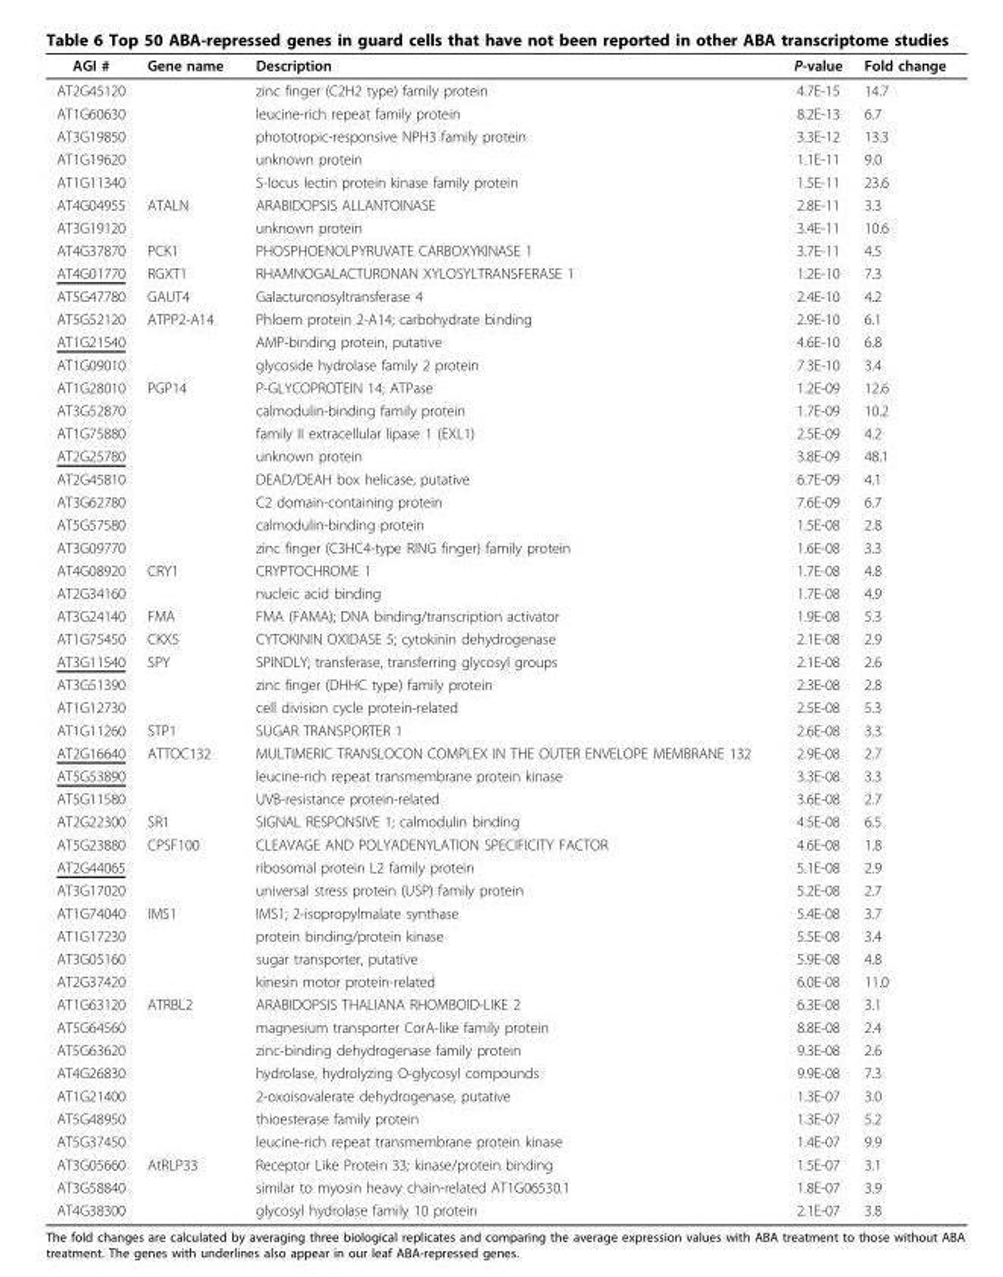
<table><thead><tr><td>AGI #</td><td>Gene name</td><td>Description</td><td>P-value</td><td>Fold change</td></tr></thead><tbody><tr><td>AT2G45120</td><td></td><td>zinc finger (C2H2 type) family protein</td><td>4.7E-15</td><td>14.7</td></tr><tr><td>AT1G60630</td><td></td><td>leucine-rich repeat family protein</td><td>8.2E-13</td><td>6.7</td></tr><tr><td>AT3G19850</td><td></td><td>phototropic-responsive NPH3 family protein</td><td>3.3E-12</td><td>13.3</td></tr><tr><td>AT1G19620</td><td></td><td>unknown protein</td><td>1.1E-11</td><td>9.0</td></tr><tr><td>AT1G11340</td><td></td><td>S-locus lectin protein kinase family protein</td><td>1.5E-11</td><td>23.6</td></tr><tr><td>AT4G04955</td><td>ATALN</td><td>ARABIDOPSIS ALLANTOINASE</td><td>2.8E-11</td><td>3.3</td></tr><tr><td>AT3G19120</td><td></td><td>unknown protein</td><td>3.4E-11</td><td>10.6</td></tr><tr><td>AT4G37870</td><td>PCK1</td><td>PHOSPHOENOLPYRUVATE CARBOXYKINASE 1</td><td>3.7E-11</td><td>4.5</td></tr><tr><td>AT4G01770</td><td>RGXT1</td><td>RHAMNOGALACTURONAN XYLOSYLTRANSFERASE 1</td><td>1.2E-10</td><td>7.3</td></tr><tr><td>AT5G47780</td><td>GAUT4</td><td>Galacturonosyltransferase 4</td><td>2.4E-10</td><td>4.2</td></tr><tr><td>AT5G52120</td><td>ATPP2-A14</td><td>Phloem protein 2-A14; carbohydrate binding</td><td>2.9E-10</td><td>6.1</td></tr><tr><td>AT1G21540</td><td></td><td>AMP-binding protein, putative</td><td>4.6E-10</td><td>6.8</td></tr><tr><td>AT1G09010</td><td></td><td>glycoside hydrolase family 2 protein</td><td>7.3E-10</td><td>3.4</td></tr><tr><td>AT1G28010</td><td>PGP14</td><td>P-GLYCOPROTEIN 14; ATPase</td><td>1.2E-09</td><td>12.6</td></tr><tr><td>AT3G52870</td><td></td><td>calmodulin-binding family protein</td><td>1.7E-09</td><td>10.2</td></tr><tr><td>AT1G75880</td><td></td><td>family II extracellular lipase 1 (EXL1)</td><td>2.5E-09</td><td>4.2</td></tr><tr><td>AT2G25780</td><td></td><td>unknown protein</td><td>3.8E-09</td><td>48.1</td></tr><tr><td>AT2G45810</td><td></td><td>DEAD/DEAH box helicase, putative</td><td>6.7E-09</td><td>4.1</td></tr><tr><td>AT3G62780</td><td></td><td>C2 domain-containing protein</td><td>7.6E-09</td><td>6.7</td></tr><tr><td>AT5G57580</td><td></td><td>calmodulin-binding protein</td><td>1.5E-08</td><td>2.8</td></tr><tr><td>AT3G09770</td><td></td><td>zinc finger (C3HC4-type RING finger) family protein</td><td>1.6E-08</td><td>3.3</td></tr><tr><td>AT4G08920</td><td>CRY1</td><td>CRYPTOCHROME 1</td><td>1.7E-08</td><td>4.8</td></tr><tr><td>AT2G34160</td><td></td><td>nucleic acid binding</td><td>1.7E-08</td><td>4.9</td></tr><tr><td>AT3G24140</td><td>FMA</td><td>FMA (FAMA); DNA binding/transcription activator</td><td>1.9E-08</td><td>5.3</td></tr><tr><td>AT1G75450</td><td>CKX5</td><td>CYTOKININ OXIDASE 5; cytokinin dehydrogenase</td><td>2.1E-08</td><td>2.9</td></tr><tr><td>AT3G11540</td><td>SPY</td><td>SPINDLY; transferase, transferring glycosyl groups</td><td>2.1E-08</td><td>2.6</td></tr><tr><td>AT3G51390</td><td></td><td>zinc finger (DHHC type) family protein</td><td>2.3E-08</td><td>2.8</td></tr><tr><td>AT1G12730</td><td></td><td>cell division cycle protein-related</td><td>2.5E-08</td><td>5.3</td></tr><tr><td>AT1G11260</td><td>STP1</td><td>SUGAR TRANSPORTER 1</td><td>2.6E-08</td><td>3.3</td></tr><tr><td>AT2G16640</td><td>ATTOC132</td><td>MULTIMERIC TRANSLOCON COMPLEX IN THE OUTER ENVELOPE MEMBRANE 132</td><td>2.9E-08</td><td>2.7</td></tr><tr><td>AT5G53890</td><td></td><td>leucine-rich repeat transmembrane protein kinase</td><td>3.3E-08</td><td>3.3</td></tr><tr><td>AT5G11580</td><td></td><td>UVB-resistance protein-related</td><td>3.6E-08</td><td>2.7</td></tr><tr><td>AT2G22300</td><td>SR1</td><td>SIGNAL RESPONSIVE 1; calmodulin binding</td><td>4.5E-08</td><td>6.5</td></tr><tr><td>AT5G23880</td><td>CPSF100</td><td>CLEAVAGE AND POLYADENYLATION SPECIFICITY FACTOR</td><td>4.6E-08</td><td>1.8</td></tr><tr><td>AT2G44065</td><td></td><td>ribosomal protein L2 family protein</td><td>5.1E-08</td><td>2.9</td></tr><tr><td>AT3G17020</td><td></td><td>universal stress protein (USP) family protein</td><td>5.2E-08</td><td>2.7</td></tr><tr><td>AT1G74040</td><td>IMS1</td><td>IMS1; 2-isopropylmalate synthase</td><td>5.4E-08</td><td>3.7</td></tr><tr><td>AT1G17230</td><td></td><td>protein binding/protein kinase</td><td>5.5E-08</td><td>3.4</td></tr><tr><td>AT3G05160</td><td></td><td>sugar transporter, putative</td><td>5.9E-08</td><td>4.8</td></tr><tr><td>AT2G37420</td><td></td><td>kinesin motor protein-related</td><td>6.0E-08</td><td>11.0</td></tr><tr><td>AT1G63120</td><td>ATRBL2</td><td>ARABIDOPSIS THALIANA RHOMBOID-LIKE 2</td><td>6.3E-08</td><td>3.1</td></tr><tr><td>AT5G64560</td><td></td><td>magnesium transporter CorA-like family protein</td><td>8.8E-08</td><td>2.4</td></tr><tr><td>AT5G63620</td><td></td><td>zinc-binding dehydrogenase family protein</td><td>9.3E-08</td><td>2.6</td></tr><tr><td>AT4G26830</td><td></td><td>hydrolase, hydrolyzing O-glycosyl compounds</td><td>9.9E-08</td><td>7.3</td></tr><tr><td>AT1G21400</td><td></td><td>2-oxoisovalerate dehydrogenase, putative</td><td>1.3E-07</td><td>3.0</td></tr><tr><td>AT5G48950</td><td></td><td>thioesterase family protein</td><td>1.3E-07</td><td>5.2</td></tr><tr><td>AT5G37450</td><td></td><td>leucine-rich repeat transmembrane protein kinase</td><td>1.4E-07</td><td>9.9</td></tr><tr><td>AT3G05660</td><td>AtRLP33</td><td>Receptor Like Protein 33; kinase/protein binding</td><td>1.5E-07</td><td>3.1</td></tr><tr><td>AT3G58840</td><td></td><td>similar to myosin heavy chain-related AT1G06530.1</td><td>1.8E-07</td><td>3.9</td></tr><tr><td>AT4G38300</td><td></td><td>glycosyl hydrolase family 10 protein</td><td>2.1E-07</td><td>3.8</td></tr></tbody></table>